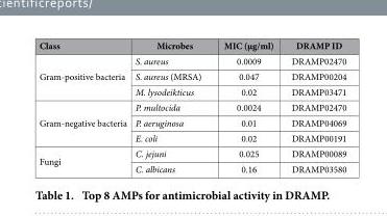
<table><thead><tr><td>Class</td><td>Microbes</td><td>MIC (μg/ml)</td><td>DRAMP ID</td></tr></thead><tbody><tr><td rowspan="3">Gram-positive bacteria</td><td>S. aureus</td><td>0.0009</td><td>DRAMP02470</td></tr><tr><td>S. aureus (MRSA)</td><td>0.047</td><td>DRAMP00204</td></tr><tr><td>M. lysodeikticus</td><td>0.02</td><td>DRAMP03471</td></tr><tr><td rowspan="3">Gram-negative bacteria</td><td>P. multocida</td><td>0.0024</td><td>DRAMP02470</td></tr><tr><td>P. aeruginosa</td><td>0.01</td><td>DRAMP04069</td></tr><tr><td>E. coli</td><td>0.02</td><td>DRAMP00191</td></tr><tr><td rowspan="2">Fungi</td><td>C. jejuni</td><td>0.025</td><td>DRAMP00089</td></tr><tr><td>C. albicans</td><td>0.16</td><td>DRAMP03580</td></tr></tbody></table>